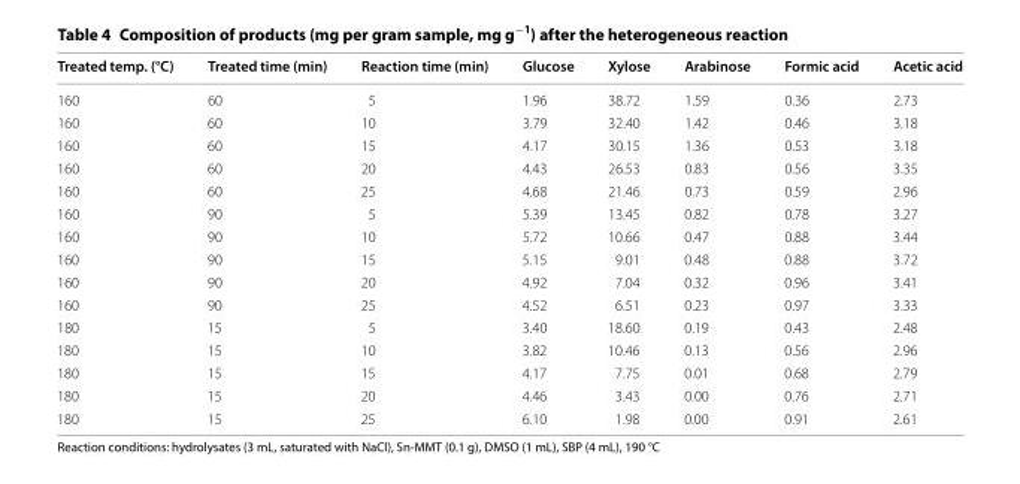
<table><thead><tr><td>Treated temp. (°C)</td><td>Treated time (min)</td><td>Reaction time (min)</td><td>Glucose</td><td>Xylose</td><td>Arabinose</td><td>Formic acid</td><td>Acetic acid</td></tr></thead><tbody><tr><td>160</td><td>60</td><td>5</td><td>1.96</td><td>38.72</td><td>1.59</td><td>0.36</td><td>2.73</td></tr><tr><td>160</td><td>60</td><td>10</td><td>3.79</td><td>32.40</td><td>1.42</td><td>0.46</td><td>3.18</td></tr><tr><td>160</td><td>60</td><td>15</td><td>4.17</td><td>30.15</td><td>1.36</td><td>0.53</td><td>3.18</td></tr><tr><td>160</td><td>60</td><td>20</td><td>4.43</td><td>26.53</td><td>0.83</td><td>0.56</td><td>3.35</td></tr><tr><td>160</td><td>60</td><td>25</td><td>4.68</td><td>21.46</td><td>0.73</td><td>0.59</td><td>2.96</td></tr><tr><td>160</td><td>90</td><td>5</td><td>5.39</td><td>13.45</td><td>0.82</td><td>0.78</td><td>3.27</td></tr><tr><td>160</td><td>90</td><td>10</td><td>5.72</td><td>10.66</td><td>0.47</td><td>0.88</td><td>3.44</td></tr><tr><td>160</td><td>90</td><td>15</td><td>5.15</td><td>9.01</td><td>0.48</td><td>0.88</td><td>3.72</td></tr><tr><td>160</td><td>90</td><td>20</td><td>4.92</td><td>7.04</td><td>0.32</td><td>0.96</td><td>3.41</td></tr><tr><td>160</td><td>90</td><td>25</td><td>4.52</td><td>6.51</td><td>0.23</td><td>0.97</td><td>3.33</td></tr><tr><td>180</td><td>15</td><td>5</td><td>3.40</td><td>18.60</td><td>0.19</td><td>0.43</td><td>2.48</td></tr><tr><td>180</td><td>15</td><td>10</td><td>3.82</td><td>10.46</td><td>0.13</td><td>0.56</td><td>2.96</td></tr><tr><td>180</td><td>15</td><td>15</td><td>4.17</td><td>7.75</td><td>0.01</td><td>0.68</td><td>2.79</td></tr><tr><td>180</td><td>15</td><td>20</td><td>4.46</td><td>3.43</td><td>0.00</td><td>0.76</td><td>2.71</td></tr><tr><td>180</td><td>15</td><td>25</td><td>6.10</td><td>1.98</td><td>0.00</td><td>0.91</td><td>2.61</td></tr></tbody></table>